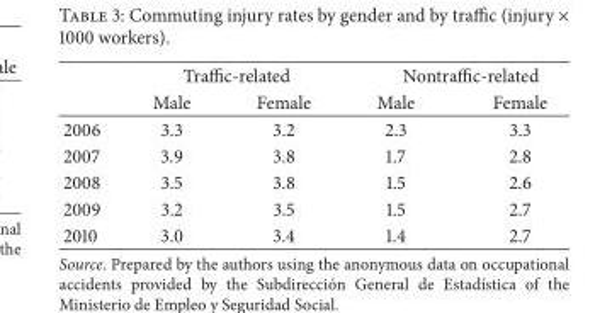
<table><thead><tr><td rowspan="2"></td><td colspan="2">Traffic-related</td><td colspan="2">Nontraffic-related</td></tr><tr><td>Male</td><td>Female</td><td>Male</td><td>Female</td></tr></thead><tbody><tr><td>2006</td><td>3.3</td><td>3.2</td><td>2.3</td><td>3.3</td></tr><tr><td>2007</td><td>3.9</td><td>3.8</td><td>1.7</td><td>2.8</td></tr><tr><td>2008</td><td>3.5</td><td>3.8</td><td>1.5</td><td>2.6</td></tr><tr><td>2009</td><td>3.2</td><td>3.5</td><td>1.5</td><td>2.7</td></tr><tr><td>2010</td><td>3.0</td><td>3.4</td><td>1.4</td><td>2.7</td></tr></tbody></table>